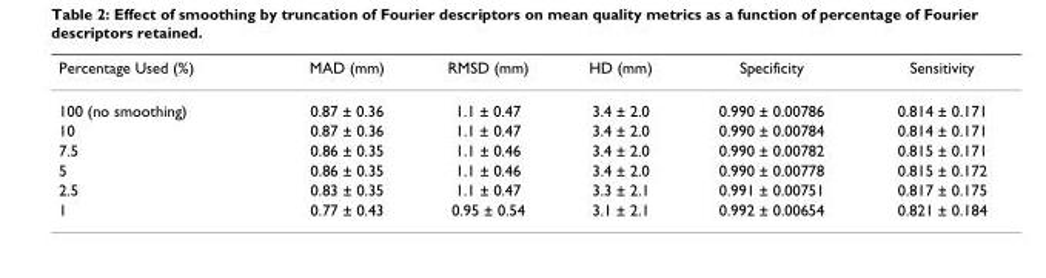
<table><thead><tr><td>Percentage Used (%)</td><td>MAD (mm)</td><td>RMSD (mm)</td><td>HD (mm)</td><td>Specificity</td><td>Sensitivity</td></tr></thead><tbody><tr><td>100 (no smoothing)</td><td>0.87 ± 0.36</td><td>1.1 ± 0.47</td><td>3.4 ± 2.0</td><td>0.990 ± 0.00786</td><td>0.814 ± 0.171</td></tr><tr><td>10</td><td>0.87 ± 0.36</td><td>1.1 ± 0.47</td><td>3.4 ± 2.0</td><td>0.990 ± 0.00784</td><td>0.814 ± 0.171</td></tr><tr><td>7.5</td><td>0.86 ± 0.35</td><td>1.1 ± 0.46</td><td>3.4 ± 2.0</td><td>0.990 ± 0.00782</td><td>0.815 ± 0.171</td></tr><tr><td>5</td><td>0.86 ± 0.35</td><td>1.1 ± 0.46</td><td>3.4 ± 2.0</td><td>0.990 ± 0.00778</td><td>0.815 ± 0.172</td></tr><tr><td>2.5</td><td>0.83 ± 0.35</td><td>1.1 ± 0.47</td><td>3.3 ± 2.1</td><td>0.991 ± 0.00751</td><td>0.817 ± 0.175</td></tr><tr><td>1</td><td>0.77 ± 0.43</td><td>0.95 ± 0.54</td><td>3.1 ± 2.1</td><td>0.992 ± 0.00654</td><td>0.821 ± 0.184</td></tr></tbody></table>